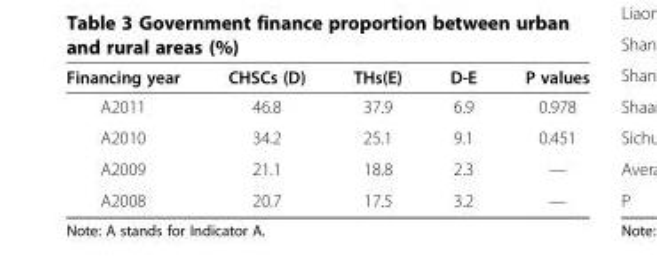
<table><thead><tr><td>Financing year</td><td>CHSCs (D)</td><td>THs(E)</td><td>D-E</td><td>P values</td></tr></thead><tbody><tr><td>A2011</td><td>46.8</td><td>37.9</td><td>6.9</td><td>0.978</td></tr><tr><td>A2010</td><td>34.2</td><td>25.1</td><td>9.1</td><td>0.451</td></tr><tr><td>A2009</td><td>21.1</td><td>18.8</td><td>2.3</td><td>—</td></tr><tr><td>A2008</td><td>20.7</td><td>17.5</td><td>3.2</td><td>—</td></tr></tbody></table>